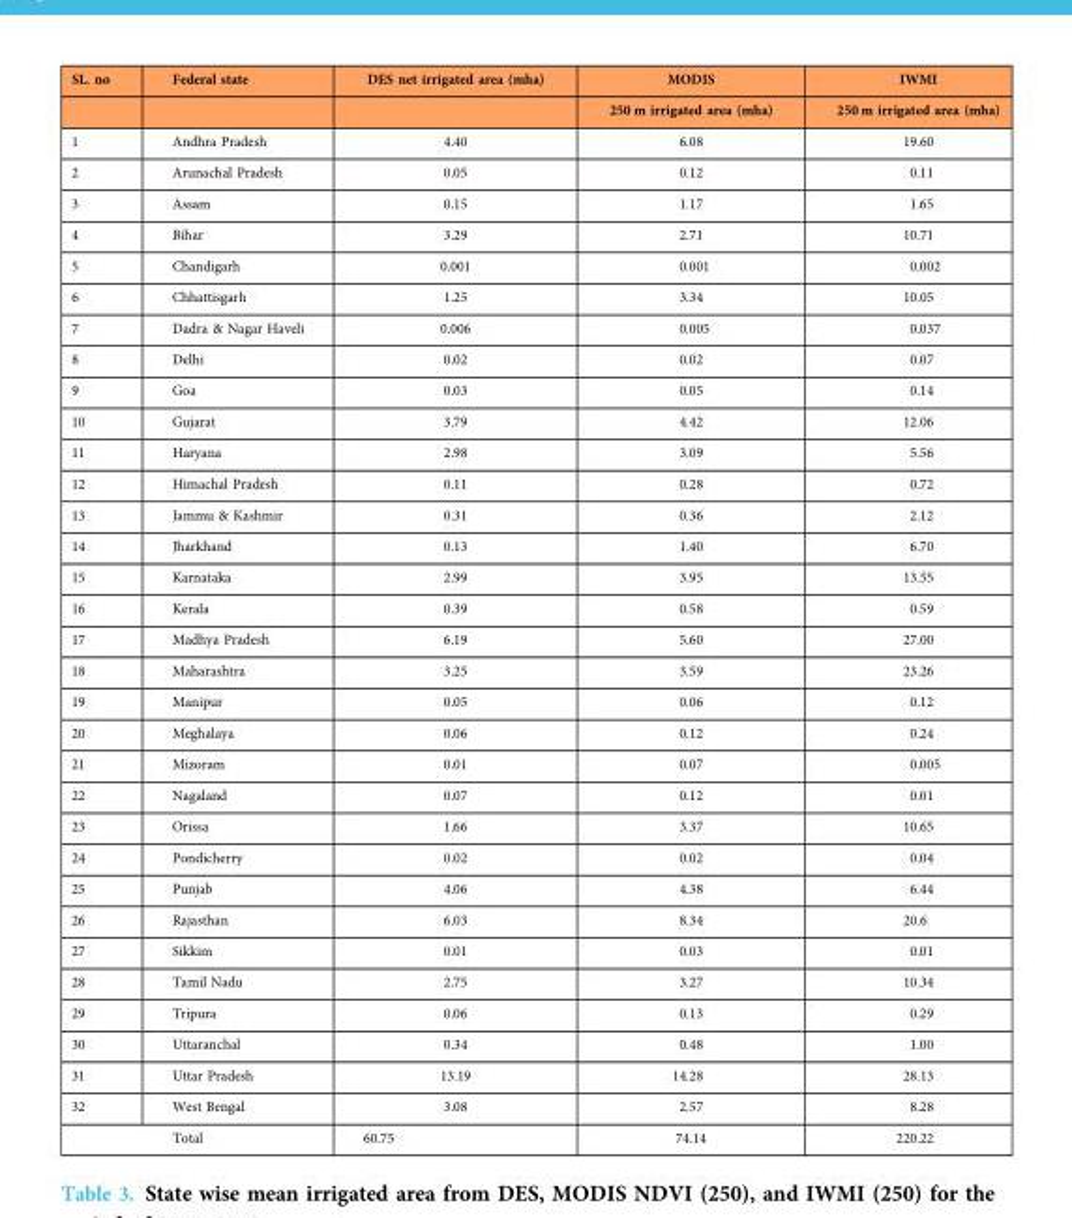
<table><thead><tr><td rowspan="2">SL. no</td><td rowspan="2">Federal state</td><td rowspan="2">DES net irrigated area (mha)</td><td rowspan="2">MODIS 250 m irrigated area (mha)</td><td rowspan="2">IWMI 250 m irrigated area (mha)</td></tr><tr></tr></thead><tbody><tr><td>1</td><td>Andhra Pradesh</td><td>4.40</td><td>6.08</td><td>19.60</td></tr><tr><td>2</td><td>Arunachal Pradesh</td><td>0.05</td><td>0.12</td><td>0.11</td></tr><tr><td>3</td><td>Assam</td><td>0.15</td><td>1.17</td><td>1.65</td></tr><tr><td>4</td><td>Bihar</td><td>3.29</td><td>2.71</td><td>10.71</td></tr><tr><td>5</td><td>Chandigarh</td><td>0.001</td><td>0.001</td><td>0.002</td></tr><tr><td>6</td><td>Chhattisgarh</td><td>1.25</td><td>3.34</td><td>10.05</td></tr><tr><td>7</td><td>Dadra &amp; Nagar Haveli</td><td>0.006</td><td>0.005</td><td>0.037</td></tr><tr><td>8</td><td>Delhi</td><td>0.02</td><td>0.02</td><td>0.07</td></tr><tr><td>9</td><td>Goa</td><td>0.03</td><td>0.05</td><td>0.14</td></tr><tr><td>10</td><td>Gujarat</td><td>3.79</td><td>4.42</td><td>12.06</td></tr><tr><td>11</td><td>Haryana</td><td>2.98</td><td>3.09</td><td>5.56</td></tr><tr><td>12</td><td>Himachal Pradesh</td><td>0.11</td><td>0.28</td><td>0.72</td></tr><tr><td>13</td><td>Jammu &amp; Kashmir</td><td>0.31</td><td>0.36</td><td>2.12</td></tr><tr><td>14</td><td>Jharkhand</td><td>0.13</td><td>1.40</td><td>6.70</td></tr><tr><td>15</td><td>Karnataka</td><td>2.99</td><td>3.95</td><td>13.55</td></tr><tr><td>16</td><td>Kerala</td><td>0.39</td><td>0.58</td><td>0.59</td></tr><tr><td>17</td><td>Madhya Pradesh</td><td>6.19</td><td>5.60</td><td>27.00</td></tr><tr><td>18</td><td>Maharashtra</td><td>3.25</td><td>3.59</td><td>23.26</td></tr><tr><td>19</td><td>Manipur</td><td>0.05</td><td>0.06</td><td>0.12</td></tr><tr><td>20</td><td>Meghalaya</td><td>0.06</td><td>0.12</td><td>0.24</td></tr><tr><td>21</td><td>Mizoram</td><td>0.01</td><td>0.07</td><td>0.005</td></tr><tr><td>22</td><td>Nagaland</td><td>0.07</td><td>0.12</td><td>0.01</td></tr><tr><td>23</td><td>Orissa</td><td>1.66</td><td>3.37</td><td>10.65</td></tr><tr><td>24</td><td>Pondicherry</td><td>0.02</td><td>0.02</td><td>0.04</td></tr><tr><td>25</td><td>Punjab</td><td>4.06</td><td>4.38</td><td>6.44</td></tr><tr><td>26</td><td>Rajasthan</td><td>6.03</td><td>8.34</td><td>20.6</td></tr><tr><td>27</td><td>Sikkim</td><td>0.01</td><td>0.03</td><td>0.01</td></tr><tr><td>28</td><td>Tamil Nadu</td><td>2.75</td><td>3.27</td><td>10.34</td></tr><tr><td>29</td><td>Tripura</td><td>0.06</td><td>0.13</td><td>0.29</td></tr><tr><td>30</td><td>Uttaranchal</td><td>0.34</td><td>0.48</td><td>1.00</td></tr><tr><td>31</td><td>Uttar Pradesh</td><td>13.19</td><td>14.28</td><td>28.13</td></tr><tr><td>32</td><td>West Bengal</td><td>3.08</td><td>2.57</td><td>8.28</td></tr><tr><td colspan="2">Total</td><td>60.75</td><td>74.14</td><td>220.22</td></tr></tbody></table>